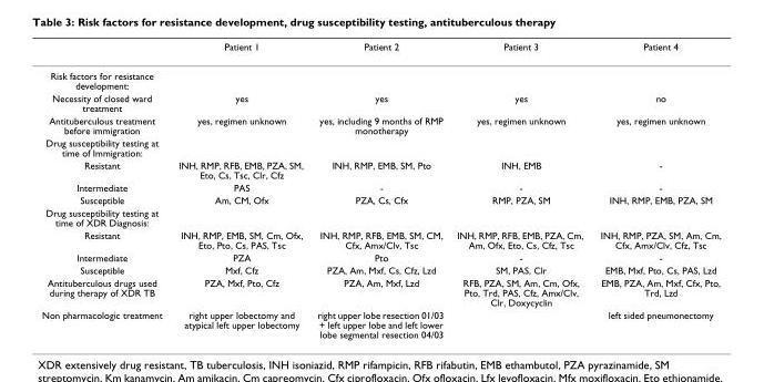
<table><thead><tr><td></td><td>Patient 1</td><td>Patient 2</td><td>Patient 3</td><td>Patient 4</td></tr></thead><tbody><tr><td colspan="5">Risk factors for resistance development:</td></tr><tr><td>Necessity of closed ward treatment</td><td>yes</td><td>yes</td><td>yes</td><td>no</td></tr><tr><td>Antituberculous treatment before immigration</td><td>yes, regimen unknown</td><td>yes, including 9 months of RMP monotherapy</td><td>yes, regimen unknown</td><td>yes, regimen unknown</td></tr><tr><td colspan="5">Drug susceptibility testing at time of Immigration:</td></tr><tr><td>Resistant</td><td>INH, RMP, RFB, EMB, PZA, SM, Eto, Cs, Tsc, Clr, Cfz</td><td>INH, RMP, EMB, SM, Pto</td><td>INH, EMB</td><td>-</td></tr><tr><td>Intermediate</td><td>PAS</td><td>-</td><td>-</td><td>-</td></tr><tr><td>Susceptible</td><td>Am, CM, Ofx</td><td>PZA, Cs, Cfx</td><td>RMP, PZA, SM</td><td>INH, RMP, EMB, PZA, SM</td></tr><tr><td colspan="5">Drug susceptibility testing at time of XDR Diagnosis:</td></tr><tr><td>Resistant</td><td>INH, RMP, EMB, SM, Cm, Ofx, Eto, Pto, Cs, PAS, Tsc</td><td>INH, RMP, RFB, EMB, SM, CM, Cfx, Amx/Clv, Tsc</td><td>INH, RMP, RFB, EMB, PZA, Cm, Am, Ofx, Eto, Cs, Cfz, Tsc</td><td>INH, RMP, PZA, SM, Am, Cm, Cfx, Amx/Clv, Cfz, Tsc</td></tr><tr><td>Intermediate</td><td>PZA</td><td>Pto</td><td>-</td><td>-</td></tr><tr><td>Susceptible</td><td>Mxf, Cfz</td><td>PZA, Am, Mxf, Cs, Cfz, Lzd</td><td>SM, PAS, Clr</td><td>EMB, Mxf, Pto, Cs, PAS, Lzd</td></tr><tr><td>Antituberculous drugs used during therapy of XDR TB</td><td>PZA, Mxf, Pto, Cfz</td><td>PZA, Am, Mxf, Lzd</td><td>RFB, PZA, SM, Am, Cm, Ofx, Pto, Trd, PAS, Cfz, Amx/Clv, Clr, Doxycyclin</td><td>EMB, PZA, Am, Mxf, Cfx, Pto, Trd, Lzd</td></tr><tr><td>Non pharmacologic treatment</td><td>right upper lobectomy and atypical left upper lobectomy</td><td>right upper lobe resection 01/03 + left upper lobe and left lower lobe segmental resection 04/03</td><td></td><td>left sided pneumonectomy</td></tr></tbody></table>